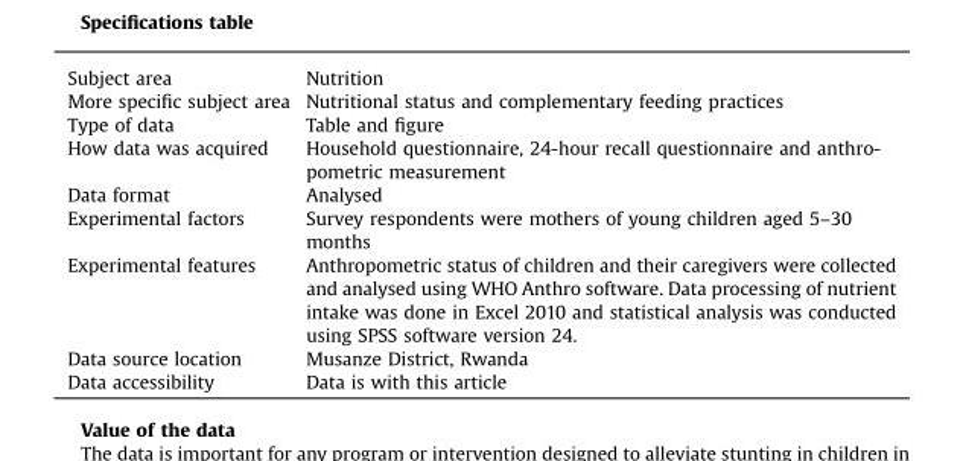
<table><tbody><tr><td>Subject area</td><td>Nutrition</td></tr><tr><td>More specific subject area</td><td>Nutritional status and complementary feeding practices</td></tr><tr><td>Type of data</td><td>Table and figure</td></tr><tr><td>How data was acquired</td><td>Household questionnaire, 24-hour recall questionnaire and anthro- pometric measurement</td></tr><tr><td>Data format</td><td>Analysed</td></tr><tr><td>Experimental factors</td><td>Survey respondents were mothers of young children aged 5–30 months</td></tr><tr><td>Experimental features</td><td>Anthropometric status of children and their caregivers were collected and analysed using WHO Anthro software. Data processing of nutrient intake was done in Excel 2010 and statistical analysis was conducted using SPSS software version 24.</td></tr><tr><td>Data source location</td><td>Musanze District, Rwanda</td></tr><tr><td>Data accessibility</td><td>Data is with this article</td></tr></tbody></table>